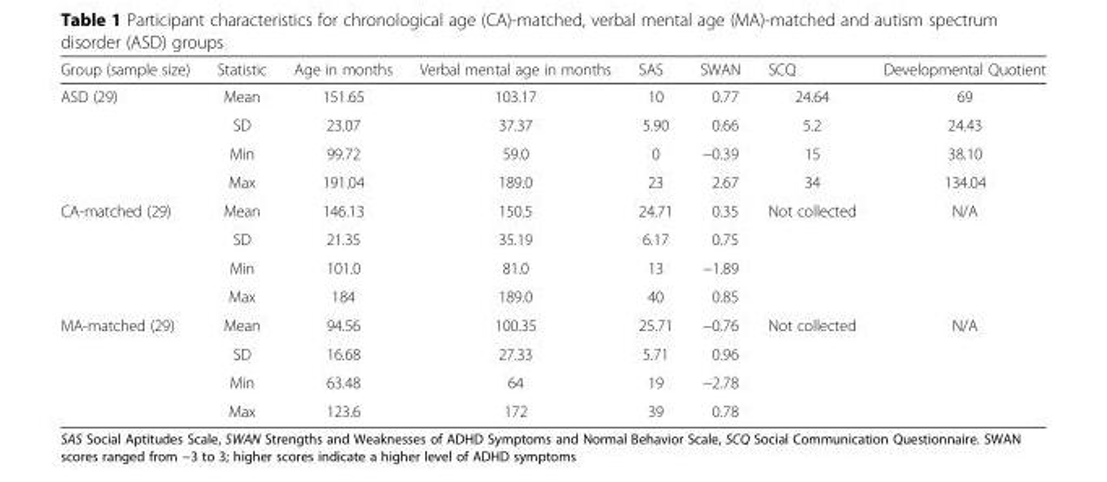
<table><thead><tr><td>Group (sample size)</td><td>Statistic</td><td>Age in months</td><td>Verbal mental age in months</td><td>SAS</td><td>SWAN</td><td>SCQ</td><td>Developmental Quotient</td></tr></thead><tbody><tr><td rowspan="4">ASD (29)</td><td>Mean</td><td>151.65</td><td>103.17</td><td>10</td><td>0.77</td><td>24.64</td><td>69</td></tr><tr><td>SD</td><td>23.07</td><td>37.37</td><td>5.90</td><td>0.66</td><td>5.2</td><td>24.43</td></tr><tr><td>Min</td><td>99.72</td><td>59.0</td><td>0</td><td>−0.39</td><td>15</td><td>38.10</td></tr><tr><td>Max</td><td>191.04</td><td>189.0</td><td>23</td><td>2.67</td><td>34</td><td>134.04</td></tr><tr><td rowspan="4">CA-matched (29)</td><td>Mean</td><td>146.13</td><td>150.5</td><td>24.71</td><td>0.35</td><td rowspan="4">Not collected</td><td rowspan="4">N/A</td></tr><tr><td>SD</td><td>21.35</td><td>35.19</td><td>6.17</td><td>0.75</td></tr><tr><td>Min</td><td>101.0</td><td>81.0</td><td>13</td><td>−1.89</td></tr><tr><td>Max</td><td>184</td><td>189.0</td><td>40</td><td>0.85</td></tr><tr><td rowspan="4">MA-matched (29)</td><td>Mean</td><td>94.56</td><td>100.35</td><td>25.71</td><td>−0.76</td><td rowspan="4">Not collected</td><td rowspan="4">N/A</td></tr><tr><td>SD</td><td>16.68</td><td>27.33</td><td>5.71</td><td>0.96</td></tr><tr><td>Min</td><td>63.48</td><td>64</td><td>19</td><td>−2.78</td></tr><tr><td>Max</td><td>123.6</td><td>172</td><td>39</td><td>0.78</td></tr></tbody></table>